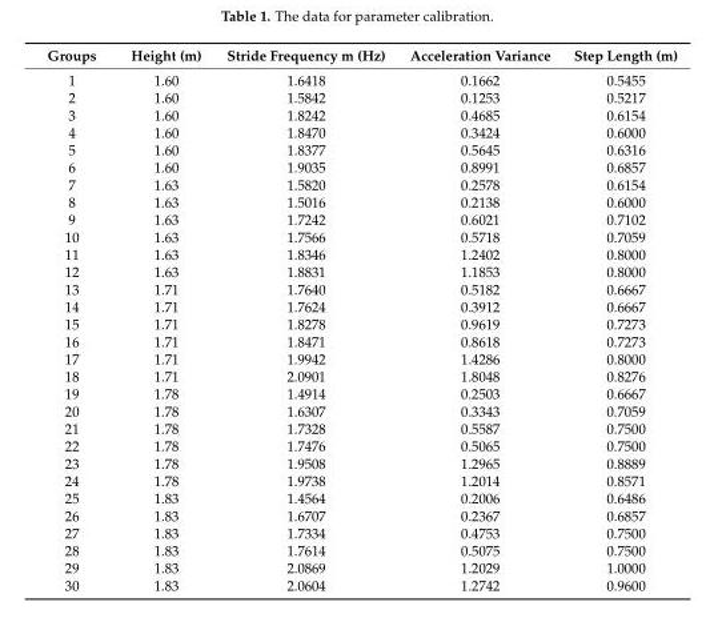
<table><thead><tr><td>Groups</td><td>Height (m)</td><td>Stride Frequency m (Hz)</td><td>Acceleration Variance</td><td>Step Length (m)</td></tr></thead><tbody><tr><td>1</td><td>1.60</td><td>1.6418</td><td>0.1662</td><td>0.5455</td></tr><tr><td>2</td><td>1.60</td><td>1.5842</td><td>0.1253</td><td>0.5217</td></tr><tr><td>3</td><td>1.60</td><td>1.8242</td><td>0.4685</td><td>0.6154</td></tr><tr><td>4</td><td>1.60</td><td>1.8470</td><td>0.3424</td><td>0.6000</td></tr><tr><td>5</td><td>1.60</td><td>1.8377</td><td>0.5645</td><td>0.6316</td></tr><tr><td>6</td><td>1.60</td><td>1.9035</td><td>0.8991</td><td>0.6857</td></tr><tr><td>7</td><td>1.63</td><td>1.5820</td><td>0.2578</td><td>0.6154</td></tr><tr><td>8</td><td>1.63</td><td>1.5016</td><td>0.2138</td><td>0.6000</td></tr><tr><td>9</td><td>1.63</td><td>1.7242</td><td>0.6021</td><td>0.7102</td></tr><tr><td>10</td><td>1.63</td><td>1.7566</td><td>0.5718</td><td>0.7059</td></tr><tr><td>11</td><td>1.63</td><td>1.8346</td><td>1.2402</td><td>0.8000</td></tr><tr><td>12</td><td>1.63</td><td>1.8831</td><td>1.1853</td><td>0.8000</td></tr><tr><td>13</td><td>1.71</td><td>1.7640</td><td>0.5182</td><td>0.6667</td></tr><tr><td>14</td><td>1.71</td><td>1.7624</td><td>0.3912</td><td>0.6667</td></tr><tr><td>15</td><td>1.71</td><td>1.8278</td><td>0.9619</td><td>0.7273</td></tr><tr><td>16</td><td>1.71</td><td>1.8471</td><td>0.8618</td><td>0.7273</td></tr><tr><td>17</td><td>1.71</td><td>1.9942</td><td>1.4286</td><td>0.8000</td></tr><tr><td>18</td><td>1.71</td><td>2.0901</td><td>1.8048</td><td>0.8276</td></tr><tr><td>19</td><td>1.78</td><td>1.4914</td><td>0.2503</td><td>0.6667</td></tr><tr><td>20</td><td>1.78</td><td>1.6307</td><td>0.3343</td><td>0.7059</td></tr><tr><td>21</td><td>1.78</td><td>1.7328</td><td>0.5587</td><td>0.7500</td></tr><tr><td>22</td><td>1.78</td><td>1.7476</td><td>0.5065</td><td>0.7500</td></tr><tr><td>23</td><td>1.78</td><td>1.9508</td><td>1.2965</td><td>0.8889</td></tr><tr><td>24</td><td>1.78</td><td>1.9738</td><td>1.2014</td><td>0.8571</td></tr><tr><td>25</td><td>1.83</td><td>1.4564</td><td>0.2006</td><td>0.6486</td></tr><tr><td>26</td><td>1.83</td><td>1.6707</td><td>0.2367</td><td>0.6857</td></tr><tr><td>27</td><td>1.83</td><td>1.7334</td><td>0.4753</td><td>0.7500</td></tr><tr><td>28</td><td>1.83</td><td>1.7614</td><td>0.5075</td><td>0.7500</td></tr><tr><td>29</td><td>1.83</td><td>2.0869</td><td>1.2029</td><td>1.0000</td></tr><tr><td>30</td><td>1.83</td><td>2.0604</td><td>1.2742</td><td>0.9600</td></tr></tbody></table>